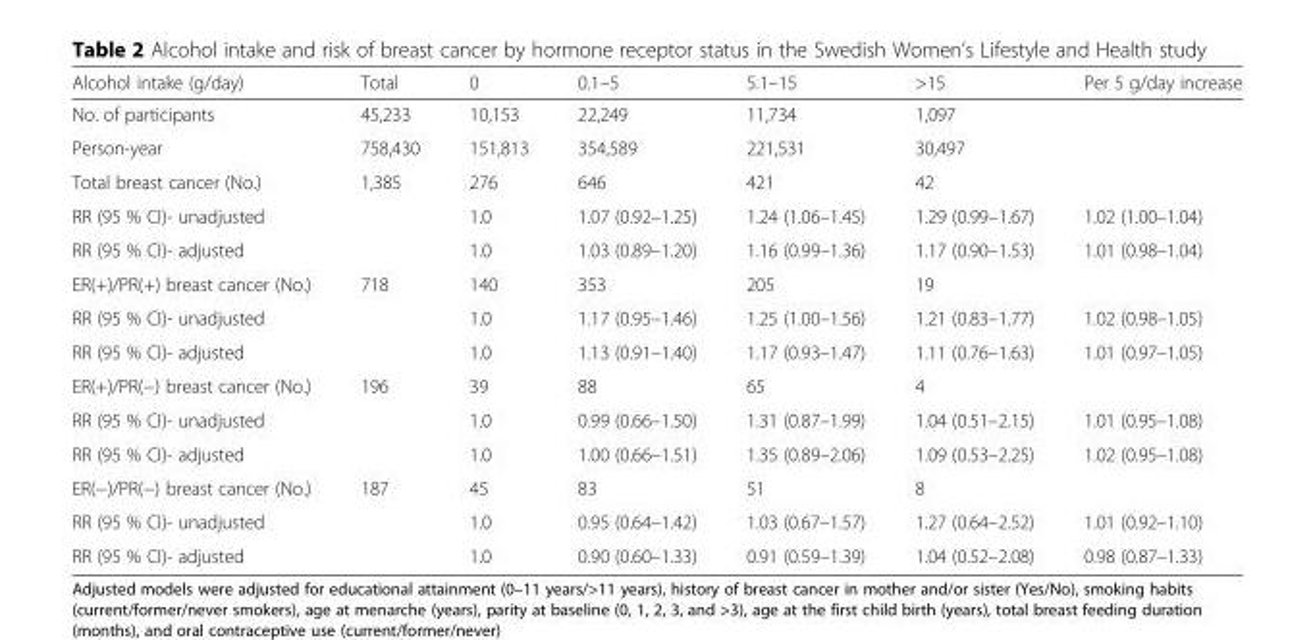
<table><thead><tr><td>Alcohol intake (g/day)</td><td>Total</td><td>0</td><td>0.1–5</td><td>5.1–15</td><td>&gt;15</td><td>Per 5 g/day increase</td></tr></thead><tbody><tr><td>No. of participants</td><td>45,233</td><td>10,153</td><td>22,249</td><td>11,734</td><td>1,097</td><td></td></tr><tr><td>Person-year</td><td>758,430</td><td>151,813</td><td>354,589</td><td>221,531</td><td>30,497</td><td></td></tr><tr><td>Total breast cancer (No.)</td><td>1,385</td><td>276</td><td>646</td><td>421</td><td>42</td><td></td></tr><tr><td>RR (95 % CI)- unadjusted</td><td></td><td>1.0</td><td>1.07 (0.92–1.25)</td><td>1.24 (1.06–1.45)</td><td>1.29 (0.99–1.67)</td><td>1.02 (1.00–1.04)</td></tr><tr><td>RR (95 % CI)- adjusted</td><td></td><td>1.0</td><td>1.03 (0.89–1.20)</td><td>1.16 (0.99–1.36)</td><td>1.17 (0.90–1.53)</td><td>1.01 (0.98–1.04)</td></tr><tr><td>ER(+)/PR(+) breast cancer (No.)</td><td>718</td><td>140</td><td>353</td><td>205</td><td>19</td><td></td></tr><tr><td>RR (95 % CI)- unadjusted</td><td></td><td>1.0</td><td>1.17 (0.95–1.46)</td><td>1.25 (1.00–1.56)</td><td>1.21 (0.83–1.77)</td><td>1.02 (0.98–1.05)</td></tr><tr><td>RR (95 % CI)- adjusted</td><td></td><td>1.0</td><td>1.13 (0.91–1.40)</td><td>1.17 (0.93–1.47)</td><td>1.11 (0.76–1.63)</td><td>1.01 (0.97–1.05)</td></tr><tr><td>ER(+)/PR(−) breast cancer (No.)</td><td>196</td><td>39</td><td>88</td><td>65</td><td>4</td><td></td></tr><tr><td>RR (95 % CI)- unadjusted</td><td></td><td>1.0</td><td>0.99 (0.66–1.50)</td><td>1.31 (0.87–1.99)</td><td>1.04 (0.51–2.15)</td><td>1.01 (0.95–1.08)</td></tr><tr><td>RR (95 % CI)- adjusted</td><td></td><td>1.0</td><td>1.00 (0.66–1.51)</td><td>1.35 (0.89–2.06)</td><td>1.09 (0.53–2.25)</td><td>1.02 (0.95–1.08)</td></tr><tr><td>ER(−)/PR(−) breast cancer (No.)</td><td>187</td><td>45</td><td>83</td><td>51</td><td>8</td><td></td></tr><tr><td>RR (95 % CI)- unadjusted</td><td></td><td>1.0</td><td>0.95 (0.64–1.42)</td><td>1.03 (0.67–1.57)</td><td>1.27 (0.64–2.52)</td><td>1.01 (0.92–1.10)</td></tr><tr><td>RR (95 % CI)- adjusted</td><td></td><td>1.0</td><td>0.90 (0.60–1.33)</td><td>0.91 (0.59–1.39)</td><td>1.04 (0.52–2.08)</td><td>0.98 (0.87–1.33)</td></tr></tbody></table>